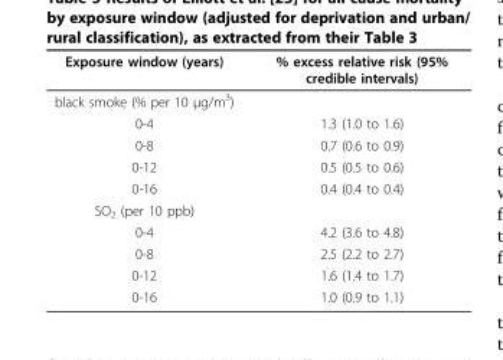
<table><thead><tr><td>Exposure window (years)</td><td>% excess relative risk (95% credible intervals)</td></tr></thead><tbody><tr><td colspan="2">black smoke (% per 10 μg/m<sup>3</sup>)</td></tr><tr><td>0-4</td><td>1.3 (1.0 to 1.6)</td></tr><tr><td>0-8</td><td>0.7 (0.6 to 0.9)</td></tr><tr><td>0-12</td><td>0.5 (0.5 to 0.6)</td></tr><tr><td>0-16</td><td>0.4 (0.4 to 0.4)</td></tr><tr><td colspan="2">SO<sub>2</sub> (per 10 ppb)</td></tr><tr><td>0-4</td><td>4.2 (3.6 to 4.8)</td></tr><tr><td>0-8</td><td>2.5 (2.2 to 2.7)</td></tr><tr><td>0-12</td><td>1.6 (1.4 to 1.7)</td></tr><tr><td>0-16</td><td>1.0 (0.9 to 1.1)</td></tr></tbody></table>